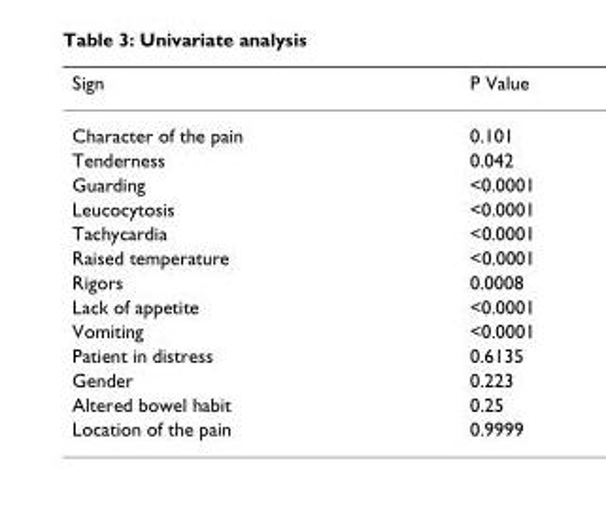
<table><thead><tr><td>Sign</td><td>P Value</td></tr></thead><tbody><tr><td>Character of the pain</td><td>0.101</td></tr><tr><td>Tenderness</td><td>0.042</td></tr><tr><td>Guarding</td><td>&lt;0.0001</td></tr><tr><td>Leucocytosis</td><td>&lt;0.0001</td></tr><tr><td>Tachycardia</td><td>&lt;0.0001</td></tr><tr><td>Raised temperature</td><td>&lt;0.0001</td></tr><tr><td>Rigors</td><td>0.0008</td></tr><tr><td>Lack of appetite</td><td>&lt;0.0001</td></tr><tr><td>Vomiting</td><td>&lt;0.0001</td></tr><tr><td>Patient in distress</td><td>0.6135</td></tr><tr><td>Gender</td><td>0.223</td></tr><tr><td>Altered bowel habit</td><td>0.25</td></tr><tr><td>Location of the pain</td><td>0.9999</td></tr></tbody></table>